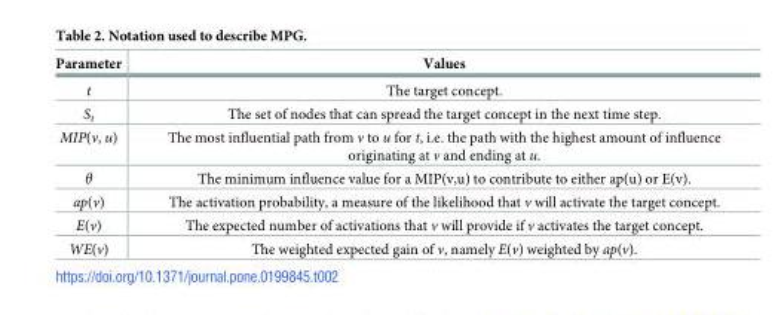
<table><thead><tr><td>Parameter</td><td>Values</td></tr></thead><tbody><tr><td>t</td><td>The target concept.</td></tr><tr><td>S<sub>t</sub></td><td>The set of nodes that can spread the target concept in the next time step.</td></tr><tr><td>MIP(v, u)</td><td>The most influential path from v to u for t, i.e. the path with the highest amount of influence originating at v and ending at u.</td></tr><tr><td>θ</td><td>The minimum influence value for a MIP(v,u) to contribute to either ap(u) or E(v).</td></tr><tr><td>ap(v)</td><td>The activation probability, a measure of the likelihood that v will activate the target concept.</td></tr><tr><td>E(v)</td><td>The expected number of activations that v will provide if v activates the target concept.</td></tr><tr><td>WE(v)</td><td>The weighted expected gain of v, namely E(v) weighted by ap(v).</td></tr></tbody></table>